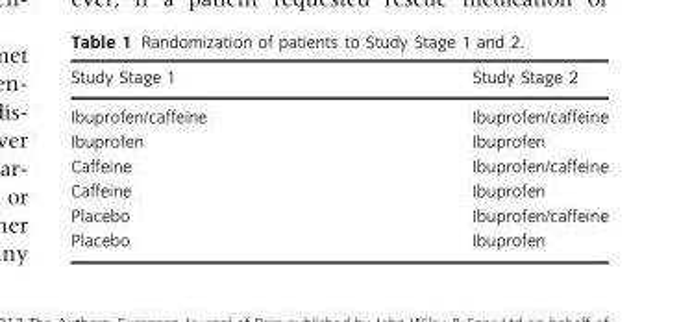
<table><thead><tr><td>Study Stage 1</td><td>Study Stage 2</td></tr></thead><tbody><tr><td>Ibuprofen/caffeine</td><td>Ibuprofen/caffeine</td></tr><tr><td>Ibuprofen</td><td>Ibuprofen</td></tr><tr><td>Caffeine</td><td>Ibuprofen/caffeine</td></tr><tr><td>Caffeine</td><td>Ibuprofen</td></tr><tr><td>Placebo</td><td>Ibuprofen/caffeine</td></tr><tr><td>Placebo</td><td>Ibuprofen</td></tr></tbody></table>